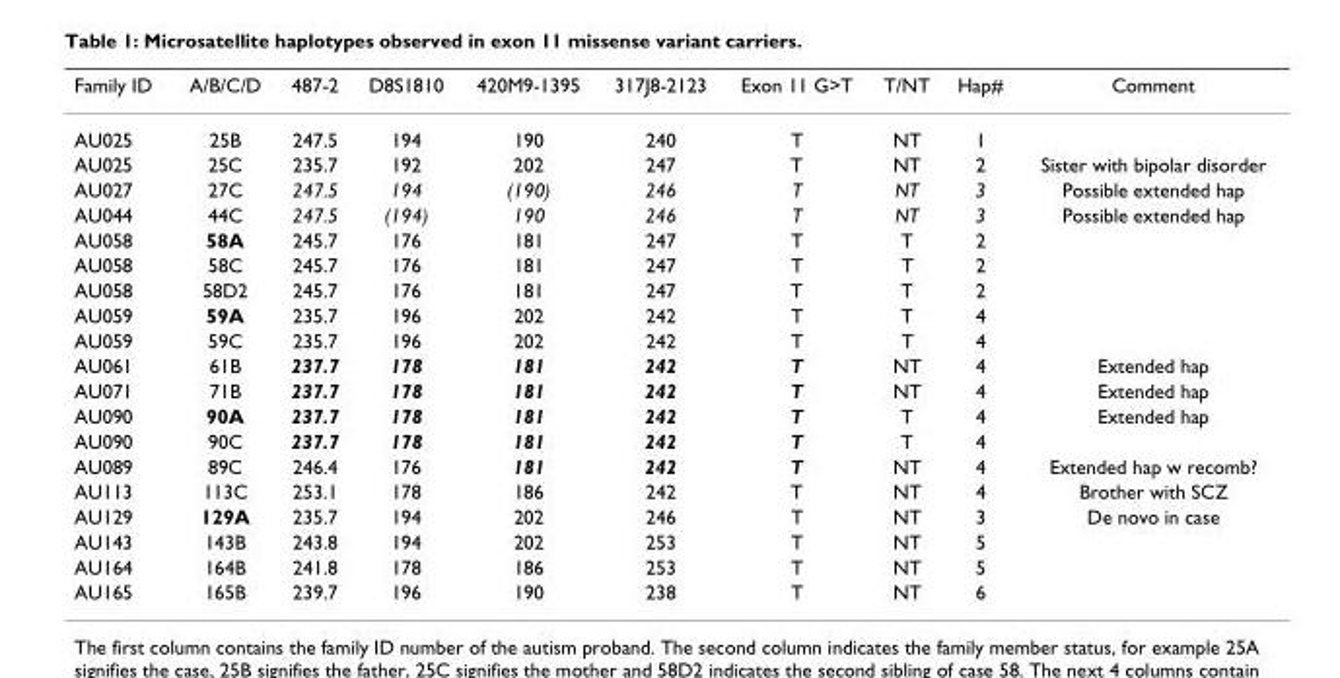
<table><thead><tr><td>Family ID</td><td>A/B/C/D</td><td>487-2</td><td>D8S1810</td><td>420M9-1395</td><td>317J8-2123</td><td>Exon 11 G&gt;T</td><td>T/NT</td><td>Hap#</td><td>Comment</td></tr></thead><tbody><tr><td>AU025</td><td>25B</td><td>247.5</td><td>194</td><td>190</td><td>240</td><td>T</td><td>NT</td><td>1</td><td></td></tr><tr><td>AU025</td><td>25C</td><td>235.7</td><td>192</td><td>202</td><td>247</td><td>T</td><td>NT</td><td>2</td><td>Sister with bipolar disorder</td></tr><tr><td>AU027</td><td>27C</td><td>247.5</td><td>194</td><td>(190)</td><td>246</td><td>T</td><td>NT</td><td>3</td><td>Possible extended hap</td></tr><tr><td>AU044</td><td>44C</td><td>247.5</td><td>(194)</td><td>190</td><td>246</td><td>T</td><td>NT</td><td>3</td><td>Possible extended hap</td></tr><tr><td>AU058</td><td>58A</td><td>245.7</td><td>176</td><td>181</td><td>247</td><td>T</td><td>T</td><td>2</td><td></td></tr><tr><td>AU058</td><td>58C</td><td>245.7</td><td>176</td><td>181</td><td>247</td><td>T</td><td>T</td><td>2</td><td></td></tr><tr><td>AU058</td><td>58D2</td><td>245.7</td><td>176</td><td>181</td><td>247</td><td>T</td><td>T</td><td>2</td><td></td></tr><tr><td>AU059</td><td>59A</td><td>235.7</td><td>196</td><td>202</td><td>242</td><td>T</td><td>T</td><td>4</td><td></td></tr><tr><td>AU059</td><td>59C</td><td>235.7</td><td>196</td><td>202</td><td>242</td><td>T</td><td>T</td><td>4</td><td></td></tr><tr><td>AU061</td><td>61B</td><td>237.7</td><td>178</td><td>181</td><td>242</td><td>T</td><td>NT</td><td>4</td><td>Extended hap</td></tr><tr><td>AU071</td><td>71B</td><td>237.7</td><td>178</td><td>181</td><td>242</td><td>T</td><td>NT</td><td>4</td><td>Extended hap</td></tr><tr><td>AU090</td><td>90A</td><td>237.7</td><td>178</td><td>181</td><td>242</td><td>T</td><td>T</td><td>4</td><td>Extended hap</td></tr><tr><td>AU090</td><td>90C</td><td>237.7</td><td>178</td><td>181</td><td>242</td><td>T</td><td>T</td><td>4</td><td></td></tr><tr><td>AU089</td><td>89C</td><td>246.4</td><td>176</td><td>181</td><td>242</td><td>T</td><td>NT</td><td>4</td><td>Extended hap w recomb?</td></tr><tr><td>AU113</td><td>113C</td><td>253.1</td><td>178</td><td>186</td><td>242</td><td>T</td><td>NT</td><td>4</td><td>Brother with SCZ</td></tr><tr><td>AU129</td><td>129A</td><td>235.7</td><td>194</td><td>202</td><td>246</td><td>T</td><td>NT</td><td>3</td><td>De novo in case</td></tr><tr><td>AU143</td><td>143B</td><td>243.8</td><td>194</td><td>202</td><td>253</td><td>T</td><td>NT</td><td>5</td><td></td></tr><tr><td>AU164</td><td>164B</td><td>241.8</td><td>178</td><td>186</td><td>253</td><td>T</td><td>NT</td><td>5</td><td></td></tr><tr><td>AU165</td><td>165B</td><td>239.7</td><td>196</td><td>190</td><td>238</td><td>T</td><td>NT</td><td>6</td><td></td></tr></tbody></table>